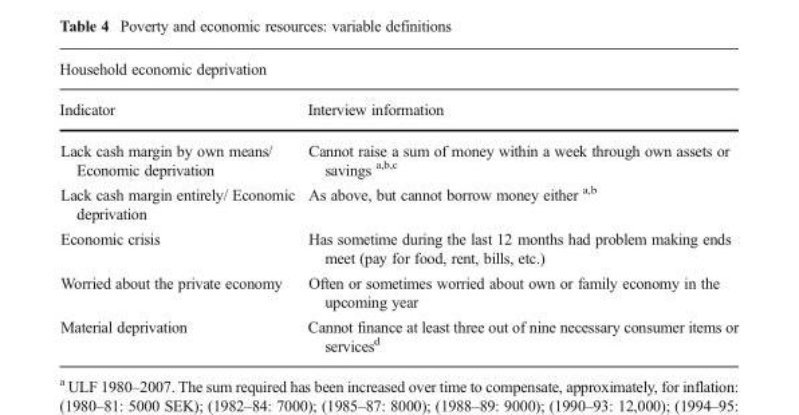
<table><thead><tr><td colspan="2">Household economic deprivation</td></tr><tr><td>Indicator</td><td>Interview information</td></tr></thead><tbody><tr><td>Lack cash margin by own means/ Economic deprivation</td><td>Cannot raise a sum of money within a week through own assets or savings <sup>a,b,c</sup></td></tr><tr><td>Lack cash margin entirely/ Economic deprivation</td><td>As above, but cannot borrow money either <sup>a,b</sup></td></tr><tr><td>Economic crisis</td><td>Has sometime during the last 12 months had problem making ends meet (pay for food, rent, bills, etc.)</td></tr><tr><td>Worried about the private economy</td><td>Often or sometimes worried about own or family economy in the upcoming year</td></tr><tr><td>Material deprivation</td><td>Cannot finance at least three out of nine necessary consumer items or services<sup>d</sup></td></tr></tbody></table>